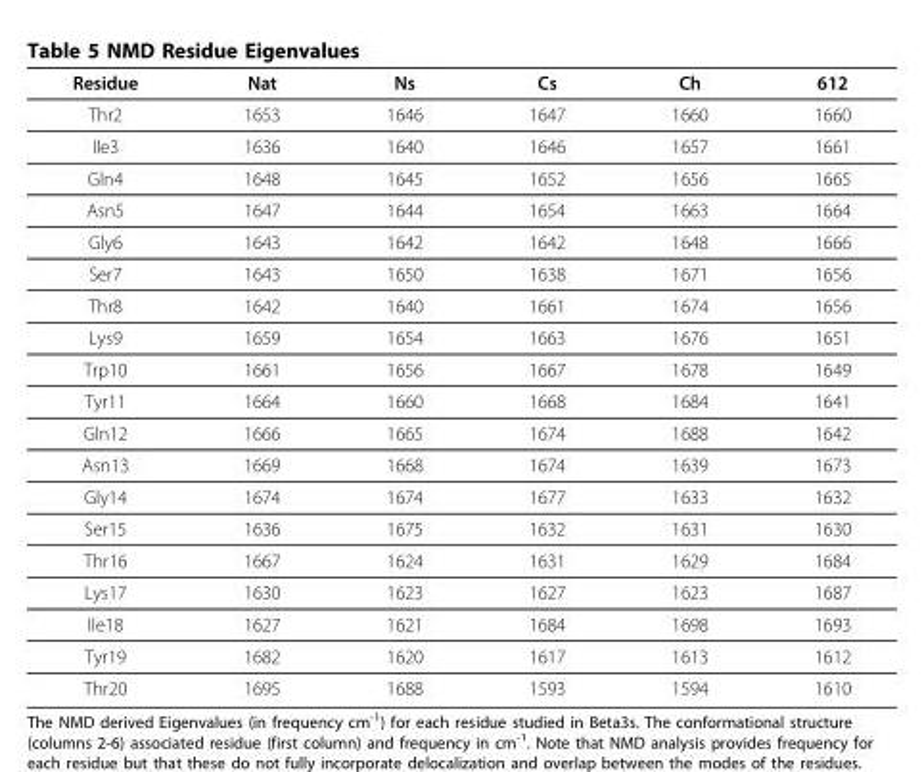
<table><thead><tr><td>Residue</td><td>Nat</td><td>Ns</td><td>Cs</td><td>Ch</td><td>612</td></tr></thead><tbody><tr><td>Thr2</td><td>1653</td><td>1646</td><td>1647</td><td>1660</td><td>1660</td></tr><tr><td>Ile3</td><td>1636</td><td>1640</td><td>1646</td><td>1657</td><td>1661</td></tr><tr><td>Gln4</td><td>1648</td><td>1645</td><td>1652</td><td>1656</td><td>1665</td></tr><tr><td>Asn5</td><td>1647</td><td>1644</td><td>1654</td><td>1663</td><td>1664</td></tr><tr><td>Gly6</td><td>1643</td><td>1642</td><td>1642</td><td>1648</td><td>1666</td></tr><tr><td>Ser7</td><td>1643</td><td>1650</td><td>1638</td><td>1671</td><td>1656</td></tr><tr><td>Thr8</td><td>1642</td><td>1640</td><td>1661</td><td>1674</td><td>1656</td></tr><tr><td>Lys9</td><td>1659</td><td>1654</td><td>1663</td><td>1676</td><td>1651</td></tr><tr><td>Trp10</td><td>1661</td><td>1656</td><td>1667</td><td>1678</td><td>1649</td></tr><tr><td>Tyr11</td><td>1664</td><td>1660</td><td>1668</td><td>1684</td><td>1641</td></tr><tr><td>Gln12</td><td>1666</td><td>1665</td><td>1674</td><td>1688</td><td>1642</td></tr><tr><td>Asn13</td><td>1669</td><td>1668</td><td>1674</td><td>1639</td><td>1673</td></tr><tr><td>Gly14</td><td>1674</td><td>1674</td><td>1677</td><td>1633</td><td>1632</td></tr><tr><td>Ser15</td><td>1636</td><td>1675</td><td>1632</td><td>1631</td><td>1630</td></tr><tr><td>Thr16</td><td>1667</td><td>1624</td><td>1631</td><td>1629</td><td>1684</td></tr><tr><td>Lys17</td><td>1630</td><td>1623</td><td>1627</td><td>1623</td><td>1687</td></tr><tr><td>Ile18</td><td>1627</td><td>1621</td><td>1684</td><td>1698</td><td>1693</td></tr><tr><td>Tyr19</td><td>1682</td><td>1620</td><td>1617</td><td>1613</td><td>1612</td></tr><tr><td>Thr20</td><td>1695</td><td>1688</td><td>1593</td><td>1594</td><td>1610</td></tr></tbody></table>